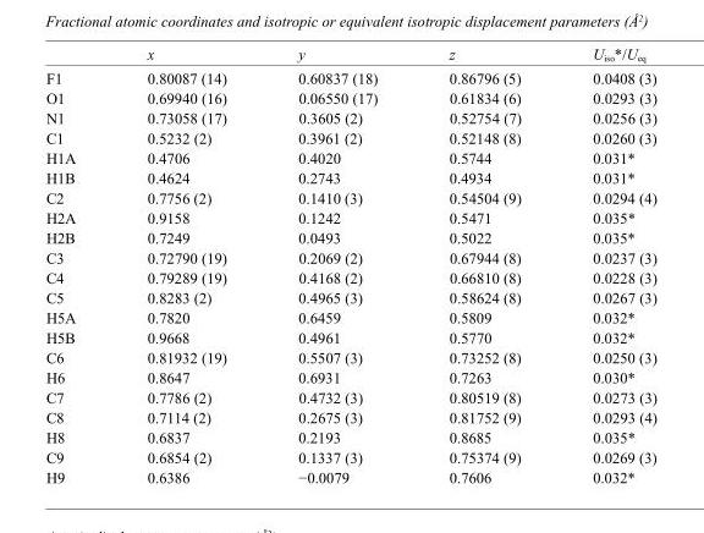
<table><thead><tr><td></td><td>x</td><td>y</td><td>z</td><td>U<sub>iso</sub>*/U<sub>eq</sub></td></tr></thead><tbody><tr><td>F1</td><td>0.80087 (14)</td><td>0.60837 (18)</td><td>0.86796 (5)</td><td>0.0408 (3)</td></tr><tr><td>O1</td><td>0.69940 (16)</td><td>0.06550 (17)</td><td>0.61834 (6)</td><td>0.0293 (3)</td></tr><tr><td>N1</td><td>0.73058 (17)</td><td>0.3605 (2)</td><td>0.52754 (7)</td><td>0.0256 (3)</td></tr><tr><td>C1</td><td>0.5232 (2)</td><td>0.3961 (2)</td><td>0.52148 (8)</td><td>0.0260 (3)</td></tr><tr><td>H1A</td><td>0.4706</td><td>0.4020</td><td>0.5744</td><td>0.031*</td></tr><tr><td>H1B</td><td>0.4624</td><td>0.2743</td><td>0.4934</td><td>0.031*</td></tr><tr><td>C2</td><td>0.7756 (2)</td><td>0.1410 (3)</td><td>0.54504 (9)</td><td>0.0294 (4)</td></tr><tr><td>H2A</td><td>0.9158</td><td>0.1242</td><td>0.5471</td><td>0.035*</td></tr><tr><td>H2B</td><td>0.7249</td><td>0.0493</td><td>0.5022</td><td>0.035*</td></tr><tr><td>C3</td><td>0.72790 (19)</td><td>0.2069 (2)</td><td>0.67944 (8)</td><td>0.0237 (3)</td></tr><tr><td>C4</td><td>0.79289 (19)</td><td>0.4168 (2)</td><td>0.66810 (8)</td><td>0.0228 (3)</td></tr><tr><td>C5</td><td>0.8283 (2)</td><td>0.4965 (3)</td><td>0.58624 (8)</td><td>0.0267 (3)</td></tr><tr><td>H5A</td><td>0.7820</td><td>0.6459</td><td>0.5809</td><td>0.032*</td></tr><tr><td>H5B</td><td>0.9668</td><td>0.4961</td><td>0.5770</td><td>0.032*</td></tr><tr><td>C6</td><td>0.81932 (19)</td><td>0.5507 (3)</td><td>0.73252 (8)</td><td>0.0250 (3)</td></tr><tr><td>H6</td><td>0.8647</td><td>0.6931</td><td>0.7263</td><td>0.030*</td></tr><tr><td>C7</td><td>0.7786 (2)</td><td>0.4732 (3)</td><td>0.80519 (8)</td><td>0.0273 (3)</td></tr><tr><td>C8</td><td>0.7114 (2)</td><td>0.2675 (3)</td><td>0.81752 (9)</td><td>0.0293 (4)</td></tr><tr><td>H8</td><td>0.6837</td><td>0.2193</td><td>0.8685</td><td>0.035*</td></tr><tr><td>C9</td><td>0.6854 (2)</td><td>0.1337 (3)</td><td>0.75374 (9)</td><td>0.0269 (3)</td></tr><tr><td>H9</td><td>0.6386</td><td>−0.0079</td><td>0.7606</td><td>0.032*</td></tr></tbody></table>